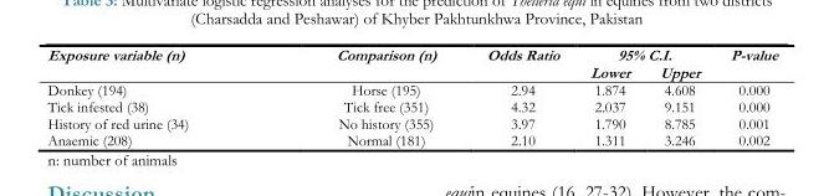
<table><thead><tr><td rowspan="2">Exposure variable (n)</td><td rowspan="2">Comparison (n)</td><td rowspan="2">Odds Ratio</td><td colspan="2">95% C.I.</td><td rowspan="2">P-value</td></tr><tr><td>Lower</td><td>Upper</td></tr></thead><tbody><tr><td>Donkey (194)</td><td>Horse (195)</td><td>2.94</td><td>1.874</td><td>4.608</td><td>0.000</td></tr><tr><td>Tick infested (38)</td><td>Tick free (351)</td><td>4.32</td><td>2.037</td><td>9.151</td><td>0.000</td></tr><tr><td>History of red urine (34)</td><td>No history (355)</td><td>3.97</td><td>1.790</td><td>8.785</td><td>0.001</td></tr><tr><td>Anaemic (208)</td><td>Normal (181)</td><td>2.10</td><td>1.311</td><td>3.246</td><td>0.002</td></tr></tbody></table>